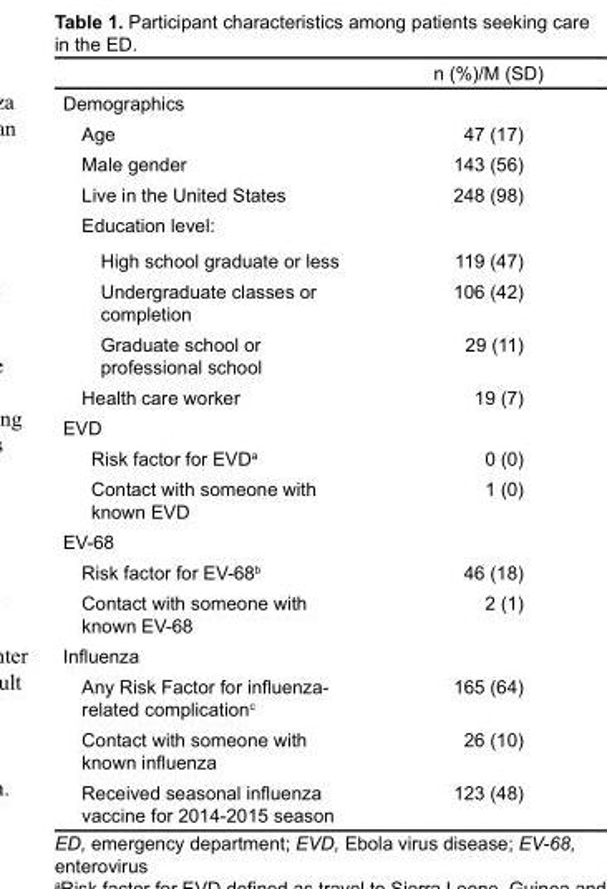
<table><thead><tr><td></td><td>n (%)/M (SD)</td></tr></thead><tbody><tr><td colspan="2">Demographics</td></tr><tr><td>Age</td><td>47 (17)</td></tr><tr><td>Male gender</td><td>143 (56)</td></tr><tr><td>Live in the United States</td><td>248 (98)</td></tr><tr><td colspan="2">Education level:</td></tr><tr><td>High school graduate or less</td><td>119 (47)</td></tr><tr><td>Undergraduate classes or completion</td><td>106 (42)</td></tr><tr><td>Graduate school or professional school</td><td>29 (11)</td></tr><tr><td>Health care worker</td><td>19 (7)</td></tr><tr><td colspan="2">EVD</td></tr><tr><td>Risk factor for EVD<sup>a</sup></td><td>0 (0)</td></tr><tr><td>Contact with someone with known EVD</td><td>1 (0)</td></tr><tr><td colspan="2">EV-68</td></tr><tr><td>Risk factor for EV-68<sup>b</sup></td><td>46 (18)</td></tr><tr><td>Contact with someone with known EV-68</td><td>2 (1)</td></tr><tr><td colspan="2">Influenza</td></tr><tr><td>Any Risk Factor for influenza- related complication<sup>c</sup></td><td>165 (64)</td></tr><tr><td>Contact with someone with known influenza</td><td>26 (10)</td></tr><tr><td>Received seasonal influenza vaccine for 2014-2015 season</td><td>123 (48)</td></tr></tbody></table>